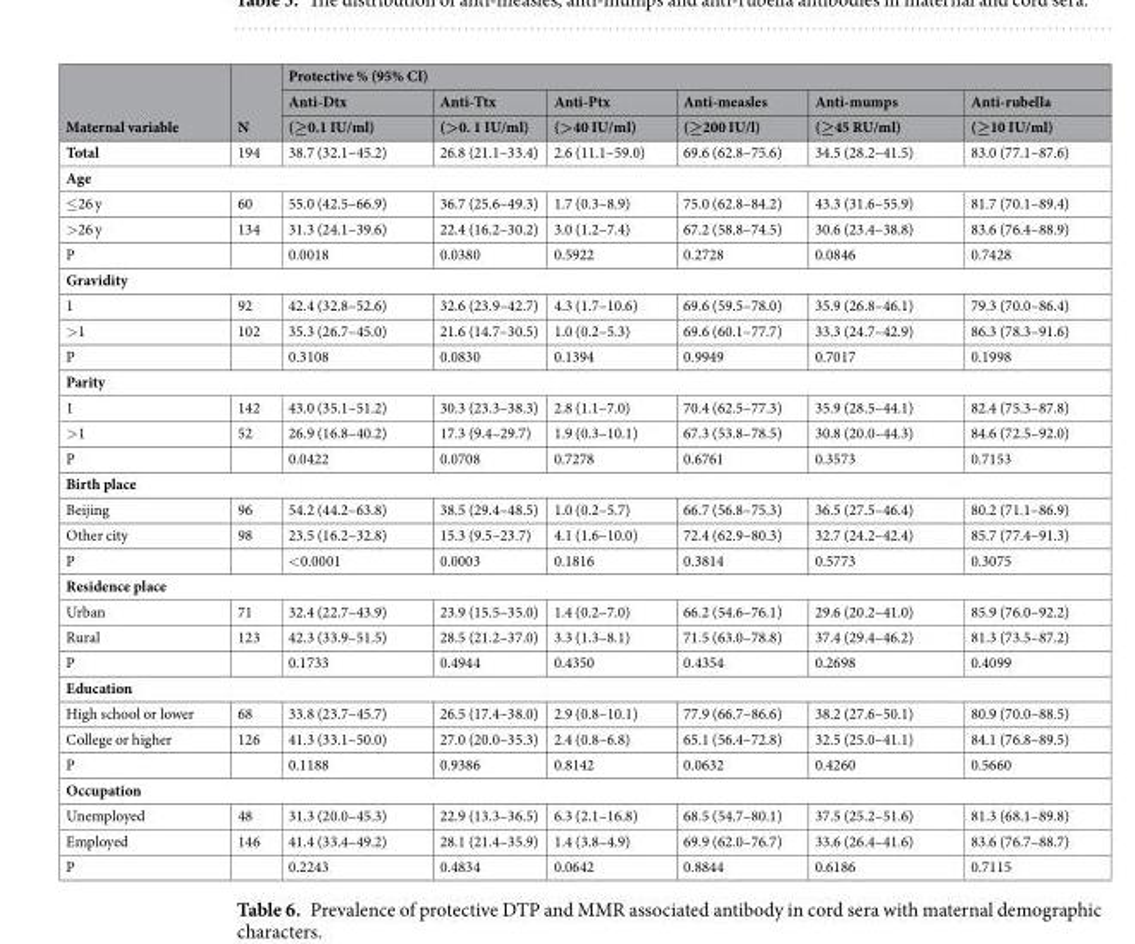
<table><thead><tr><td rowspan="3">Maternal variable</td><td rowspan="3">N</td><td colspan="6">Protective % (95% CI)</td></tr><tr><td rowspan="2">Anti-Dtx (≥0.1 IU/ml)</td><td rowspan="2">Anti-Ttx (&gt;0. 1 IU/ml)</td><td rowspan="2">Anti-Ptx (&gt;40 IU/ml)</td><td rowspan="2">Anti-measles (≥200 IU/l)</td><td rowspan="2">Anti-mumps (≥45 RU/ml)</td><td rowspan="2">Anti-rubella (≥10 IU/ml)</td></tr><tr></tr></thead><tbody><tr><td>Total</td><td>194</td><td>38.7 (32.1–45.2)</td><td>26.8 (21.1–33.4)</td><td>2.6 (11.1–59.0)</td><td>69.6 (62.8–75.6)</td><td>34.5 (28.2–41.5)</td><td>83.0 (77.1–87.6)</td></tr><tr><td colspan="8">Age</td></tr><tr><td>≤26 y</td><td>60</td><td>55.0 (42.5–66.9)</td><td>36.7 (25.6–49.3)</td><td>1.7 (0.3–8.9)</td><td>75.0 (62.8–84.2)</td><td>43.3 (31.6–55.9)</td><td>81.7 (70.1–89.4)</td></tr><tr><td>&gt;26 y</td><td>134</td><td>31.3 (24.1–39.6)</td><td>22.4 (16.2–30.2)</td><td>3.0 (1.2–7.4)</td><td>67.2 (58.8–74.5)</td><td>30.6 (23.4–38.8)</td><td>83.6 (76.4–88.9)</td></tr><tr><td>P</td><td></td><td>0.0018</td><td>0.0380</td><td>0.5922</td><td>0.2728</td><td>0.0846</td><td>0.7428</td></tr><tr><td colspan="8">Gravidity</td></tr><tr><td>1</td><td>92</td><td>42.4 (32.8–52.6)</td><td>32.6 (23.9–42.7)</td><td>4.3 (1.7–10.6)</td><td>69.6 (59.5–78.0)</td><td>35.9 (26.8–46.1)</td><td>79.3 (70.0–86.4)</td></tr><tr><td>&gt;1</td><td>102</td><td>35.3 (26.7–45.0)</td><td>21.6 (14.7–30.5)</td><td>1.0 (0.2–5.3)</td><td>69.6 (60.1–77.7)</td><td>33.3 (24.7–42.9)</td><td>86.3 (78.3–91.6)</td></tr><tr><td>P</td><td></td><td>0.3108</td><td>0.0830</td><td>0.1394</td><td>0.9949</td><td>0.7017</td><td>0.1998</td></tr><tr><td colspan="8">Parity</td></tr><tr><td>1</td><td>142</td><td>43.0 (35.1–51.2)</td><td>30.3 (23.3–38.3)</td><td>2.8 (1.1–7.0)</td><td>70.4 (62.5–77.3)</td><td>35.9 (28.5–44.1)</td><td>82.4 (75.3–87.8)</td></tr><tr><td>&gt;1</td><td>52</td><td>26.9 (16.8–40.2)</td><td>17.3 (9.4–29.7)</td><td>1.9 (0.3–10.1)</td><td>67.3 (53.8–78.5)</td><td>30.8 (20.0–44.3)</td><td>84.6 (72.5–92.0)</td></tr><tr><td>P</td><td></td><td>0.0422</td><td>0.0708</td><td>0.7278</td><td>0.6761</td><td>0.3573</td><td>0.7153</td></tr><tr><td colspan="8">Birth place</td></tr><tr><td>Beijing</td><td>96</td><td>54.2 (44.2–63.8)</td><td>38.5 (29.4–48.5)</td><td>1.0 (0.2–5.7)</td><td>66.7 (56.8–75.3)</td><td>36.5 (27.5–46.4)</td><td>80.2 (71.1–86.9)</td></tr><tr><td>Other city</td><td>98</td><td>23.5 (16.2–32.8)</td><td>15.3 (9.5–23.7)</td><td>4.1 (1.6–10.0)</td><td>72.4 (62.9–80.3)</td><td>32.7 (24.2–42.4)</td><td>85.7 (77.4–91.3)</td></tr><tr><td>P</td><td></td><td>&lt;0.0001</td><td>0.0003</td><td>0.1816</td><td>0.3814</td><td>0.5773</td><td>0.3075</td></tr><tr><td colspan="8">Residence place</td></tr><tr><td>Urban</td><td>71</td><td>32.4 (22.7–43.9)</td><td>23.9 (15.5–35.0)</td><td>1.4 (0.2–7.0)</td><td>66.2 (54.6–76.1)</td><td>29.6 (20.2–41.0)</td><td>85.9 (76.0–92.2)</td></tr><tr><td>Rural</td><td>123</td><td>42.3 (33.9–51.5)</td><td>28.5 (21.2–37.0)</td><td>3.3 (1.3–8.1)</td><td>71.5 (63.0–78.8)</td><td>37.4 (29.4–46.2)</td><td>81.3 (73.5–87.2)</td></tr><tr><td>P</td><td></td><td>0.1733</td><td>0.4944</td><td>0.4350</td><td>0.4354</td><td>0.2698</td><td>0.4099</td></tr><tr><td colspan="8">Education</td></tr><tr><td>High school or lower</td><td>68</td><td>33.8 (23.7–45.7)</td><td>26.5 (17.4–38.0)</td><td>2.9 (0.8–10.1)</td><td>77.9 (66.7–86.6)</td><td>38.2 (27.6–50.1)</td><td>80.9 (70.0–88.5)</td></tr><tr><td>College or higher</td><td>126</td><td>41.3 (33.1–50.0)</td><td>27.0 (20.0–35.3)</td><td>2.4 (0.8–6.8)</td><td>65.1 (56.4–72.8)</td><td>32.5 (25.0–41.1)</td><td>84.1 (76.8–89.5)</td></tr><tr><td>P</td><td></td><td>0.1188</td><td>0.9386</td><td>0.8142</td><td>0.0632</td><td>0.4260</td><td>0.5660</td></tr><tr><td colspan="8">Occupation</td></tr><tr><td>Unemployed</td><td>48</td><td>31.3 (20.0–45.3)</td><td>22.9 (13.3–36.5)</td><td>6.3 (2.1–16.8)</td><td>68.5 (54.7–80.1)</td><td>37.5 (25.2–51.6)</td><td>81.3 (68.1–89.8)</td></tr><tr><td>Employed</td><td>146</td><td>41.4 (33.4–49.2)</td><td>28.1 (21.4–35.9)</td><td>1.4 (3.8–4.9)</td><td>69.9 (62.0–76.7)</td><td>33.6 (26.4–41.6)</td><td>83.6 (76.7–88.7)</td></tr><tr><td>P</td><td></td><td>0.2243</td><td>0.4834</td><td>0.0642</td><td>0.8844</td><td>0.6186</td><td>0.7115</td></tr></tbody></table>